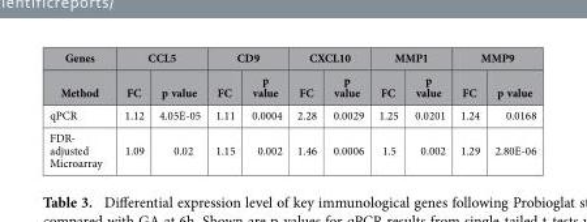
<table><thead><tr><td rowspan="2">Genes Method</td><td colspan="2">CCL5</td><td colspan="2">CD9</td><td colspan="2">CXCL10</td><td colspan="2">MMP1</td><td colspan="2">MMP9</td></tr><tr><td>FC</td><td>p value</td><td>FC</td><td>p value</td><td>FC</td><td>p value</td><td>FC</td><td>p value</td><td>FC</td><td>p value</td></tr></thead><tbody><tr><td>qPCR</td><td>1.12</td><td>4.05E-05</td><td>1.11</td><td>0.0004</td><td>2.28</td><td>0.0029</td><td>1.25</td><td>0.0201</td><td>1.24</td><td>0.0168</td></tr><tr><td>FDR- adjusted Microarray</td><td>1.09</td><td>0.02</td><td>1.15</td><td>0.002</td><td>1.46</td><td>0.0006</td><td>1.5</td><td>0.002</td><td>1.29</td><td>2.80E-06</td></tr></tbody></table>